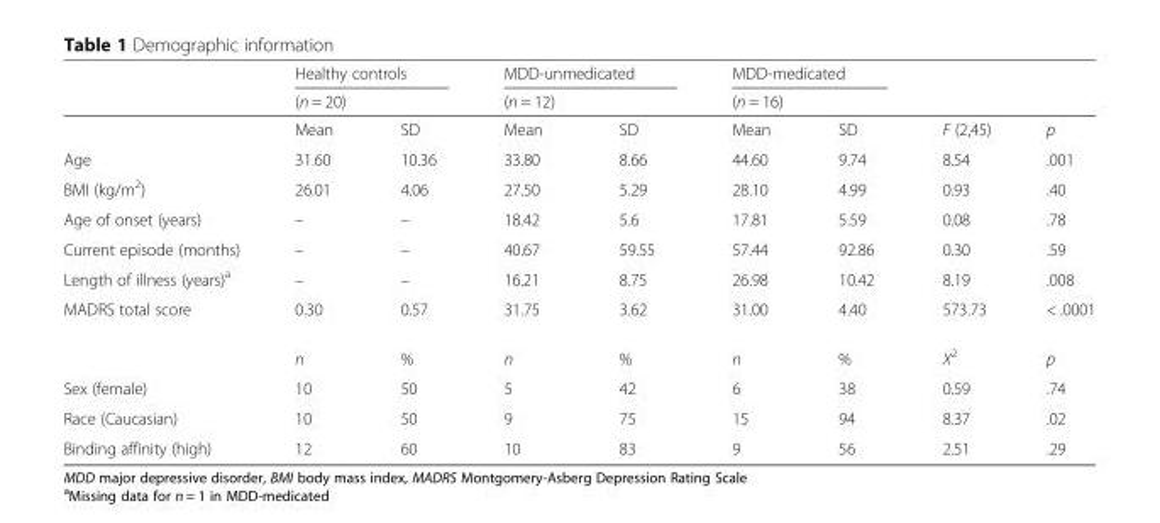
<table><thead><tr><td rowspan="3"></td><td rowspan="2" colspan="2">Healthy controls (n = 20)</td><td rowspan="2" colspan="2">MDD-unmedicated (n = 12)</td><td rowspan="2" colspan="2">MDD-medicated (n = 16)</td><td rowspan="3">F (2,45)</td><td rowspan="3">p</td></tr><tr></tr><tr><td>Mean</td><td>SD</td><td>Mean</td><td>SD</td><td>Mean</td><td>SD</td></tr></thead><tbody><tr><td>Age</td><td>31.60</td><td>10.36</td><td>33.80</td><td>8.66</td><td>44.60</td><td>9.74</td><td>8.54</td><td>.001</td></tr><tr><td>BMI (kg/m<sup>2</sup>)</td><td>26.01</td><td>4.06</td><td>27.50</td><td>5.29</td><td>28.10</td><td>4.99</td><td>0.93</td><td>.40</td></tr><tr><td>Age of onset (years)</td><td>–</td><td>–</td><td>18.42</td><td>5.6</td><td>17.81</td><td>5.59</td><td>0.08</td><td>.78</td></tr><tr><td>Current episode (months)</td><td>–</td><td>–</td><td>40.67</td><td>59.55</td><td>57.44</td><td>92.86</td><td>0.30</td><td>.59</td></tr><tr><td>Length of illness (years)<sup>a</sup></td><td>–</td><td>–</td><td>16.21</td><td>8.75</td><td>26.98</td><td>10.42</td><td>8.19</td><td>.008</td></tr><tr><td rowspan="2">MADRS total score</td><td>0.30</td><td>0.57</td><td>31.75</td><td>3.62</td><td>31.00</td><td>4.40</td><td>573.73</td><td>&lt; .0001</td></tr><tr><td>n</td><td>%</td><td>n</td><td>%</td><td>n</td><td>%</td><td>X<sup>2</sup></td><td>p</td></tr><tr><td>Sex (female)</td><td>10</td><td>50</td><td>5</td><td>42</td><td>6</td><td>38</td><td>0.59</td><td>.74</td></tr><tr><td>Race (Caucasian)</td><td>10</td><td>50</td><td>9</td><td>75</td><td>15</td><td>94</td><td>8.37</td><td>.02</td></tr><tr><td>Binding affinity (high)</td><td>12</td><td>60</td><td>10</td><td>83</td><td>9</td><td>56</td><td>2.51</td><td>.29</td></tr></tbody></table>